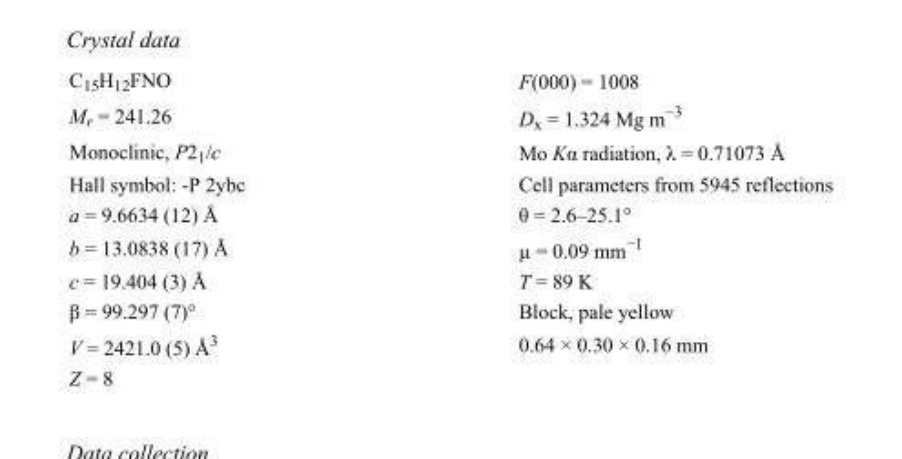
<table><tbody><tr><td>C<sub>15</sub>H<sub>12</sub>FNO</td><td>F(000) = 1008</td></tr><tr><td>M<sub>r</sub> = 241.26</td><td>D<sub>x</sub> = 1.324 Mg m<sup>−3</sup></td></tr><tr><td>Monoclinic, P2<sub>1</sub>/c</td><td>Mo Kα radiation, λ = 0.71073 Å</td></tr><tr><td>Hall symbol: -P 2ybc</td><td>Cell parameters from 5945 reflections</td></tr><tr><td>a = 9.6634 (12) Å</td><td>θ = 2.6–25.1°</td></tr><tr><td>b = 13.0838 (17) Å</td><td>µ = 0.09 mm<sup>−1</sup></td></tr><tr><td>c = 19.404 (3) Å</td><td>T = 89 K</td></tr><tr><td>β = 99.297 (7)°</td><td>Block, pale yellow</td></tr><tr><td>V = 2421.0 (5) Å<sup>3</sup></td><td>0.64 × 0.30 × 0.16 mm</td></tr><tr><td>Z = 8</td><td></td></tr></tbody></table>